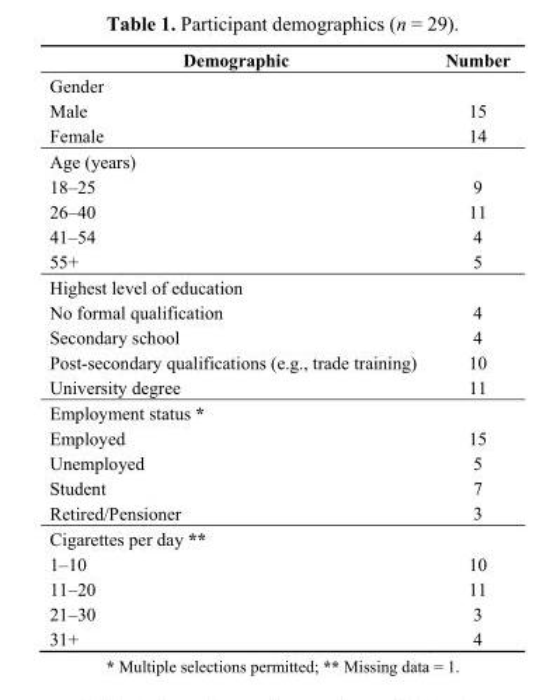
<table><thead><tr><td>Demographic</td><td>Number</td></tr></thead><tbody><tr><td colspan="2">Gender</td></tr><tr><td>Male</td><td>15</td></tr><tr><td>Female</td><td>14</td></tr><tr><td colspan="2">Age (years)</td></tr><tr><td>18–25</td><td>9</td></tr><tr><td>26–40</td><td>11</td></tr><tr><td>41–54</td><td>4</td></tr><tr><td>55+</td><td>5</td></tr><tr><td colspan="2">Highest level of education</td></tr><tr><td>No formal qualification</td><td>4</td></tr><tr><td>Secondary school</td><td>4</td></tr><tr><td>Post-secondary qualifications (e.g., trade training)</td><td>10</td></tr><tr><td>University degree</td><td>11</td></tr><tr><td colspan="2">Employment status *</td></tr><tr><td>Employed</td><td>15</td></tr><tr><td>Unemployed</td><td>5</td></tr><tr><td>Student</td><td>7</td></tr><tr><td>Retired/Pensioner</td><td>3</td></tr><tr><td colspan="2">Cigarettes per day **</td></tr><tr><td>1–10</td><td>10</td></tr><tr><td>11–20</td><td>11</td></tr><tr><td>21–30</td><td>3</td></tr><tr><td>31+</td><td>4</td></tr></tbody></table>